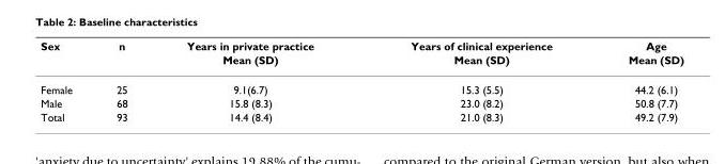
<table><thead><tr><td rowspan="2">Sex</td><td rowspan="2">n</td><td rowspan="2">Years in private practice Mean (SD)</td><td rowspan="2">Years of clinical experience Mean (SD)</td><td rowspan="2">Age Mean (SD)</td></tr><tr></tr></thead><tbody><tr><td>Female</td><td>25</td><td>9.1(6.7)</td><td>15.3 (5.5)</td><td>44.2 (6.1)</td></tr><tr><td>Male</td><td>68</td><td>15.8 (8.3)</td><td>23.0 (8.2)</td><td>50.8 (7.7)</td></tr><tr><td>Total</td><td>93</td><td>14.4 (8.4)</td><td>21.0 (8.3)</td><td>49.2 (7.9)</td></tr></tbody></table>